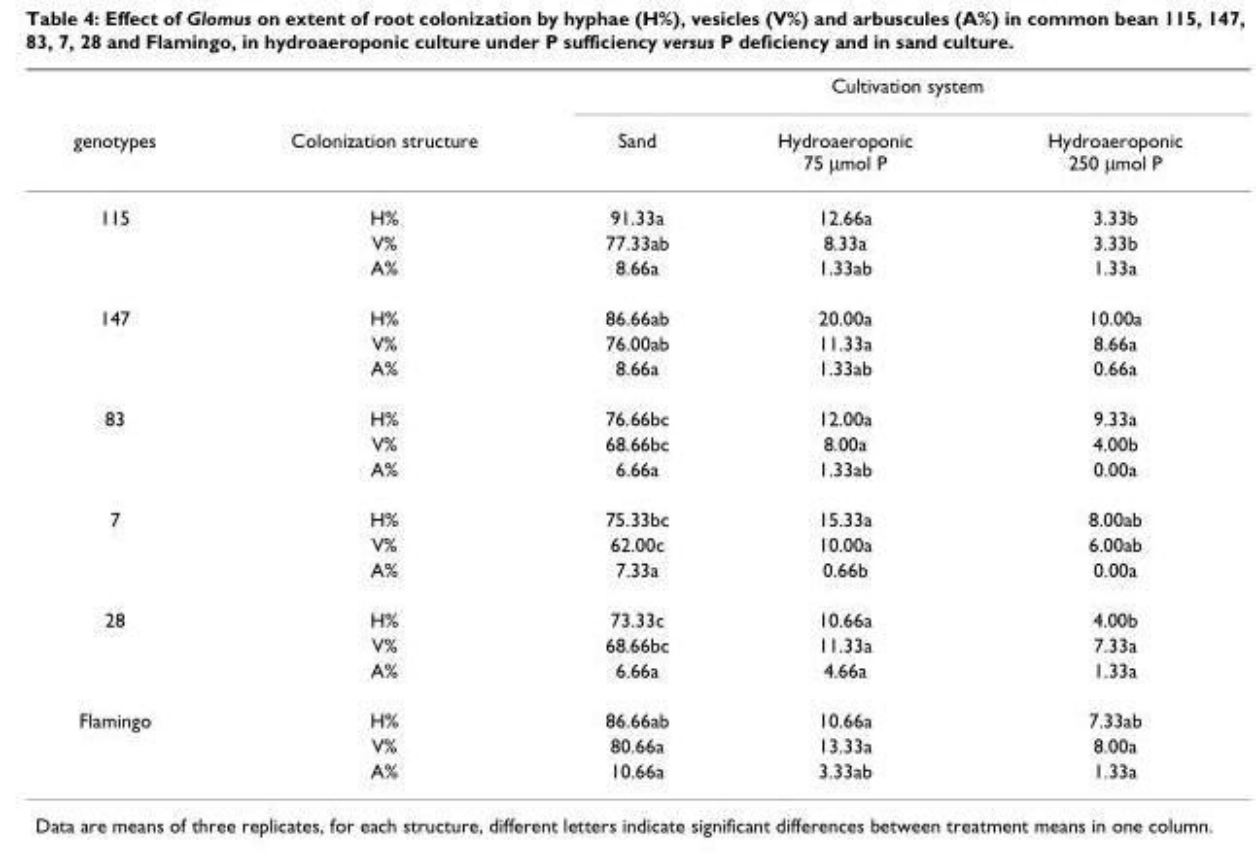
<table><thead><tr><td rowspan="2">genotypes</td><td rowspan="2">Colonization structure</td><td colspan="3">Cultivation system</td></tr><tr><td>Sand</td><td>Hydroaeroponic 75 μmol P</td><td>Hydroaeroponic 250 μmol P</td></tr></thead><tbody><tr><td rowspan="3">115</td><td>H%</td><td>91.33a</td><td>12.66a</td><td>3.33b</td></tr><tr><td>V%</td><td>77.33ab</td><td>8.33a</td><td>3.33b</td></tr><tr><td>A%</td><td>8.66a</td><td>1.33ab</td><td>1.33a</td></tr><tr><td rowspan="3">147</td><td>H%</td><td>86.66ab</td><td>20.00a</td><td>10.00a</td></tr><tr><td>V%</td><td>76.00ab</td><td>11.33a</td><td>8.66a</td></tr><tr><td>A%</td><td>8.66a</td><td>1.33ab</td><td>0.66a</td></tr><tr><td rowspan="3">83</td><td>H%</td><td>76.66bc</td><td>12.00a</td><td>9.33a</td></tr><tr><td>V%</td><td>68.66bc</td><td>8.00a</td><td>4.00b</td></tr><tr><td>A%</td><td>6.66a</td><td>1.33ab</td><td>0.00a</td></tr><tr><td rowspan="3">7</td><td>H%</td><td>75.33bc</td><td>15.33a</td><td>8.00ab</td></tr><tr><td>V%</td><td>62.00c</td><td>10.00a</td><td>6.00ab</td></tr><tr><td>A%</td><td>7.33a</td><td>0.66b</td><td>0.00a</td></tr><tr><td rowspan="3">28</td><td>H%</td><td>73.33c</td><td>10.66a</td><td>4.00b</td></tr><tr><td>V%</td><td>68.66bc</td><td>11.33a</td><td>7.33a</td></tr><tr><td>A%</td><td>6.66a</td><td>4.66a</td><td>1.33a</td></tr><tr><td rowspan="3">Flamingo</td><td>H%</td><td>86.66ab</td><td>10.66a</td><td>7.33ab</td></tr><tr><td>V%</td><td>80.66a</td><td>13.33a</td><td>8.00a</td></tr><tr><td>A%</td><td>10.66a</td><td>3.33ab</td><td>1.33a</td></tr></tbody></table>